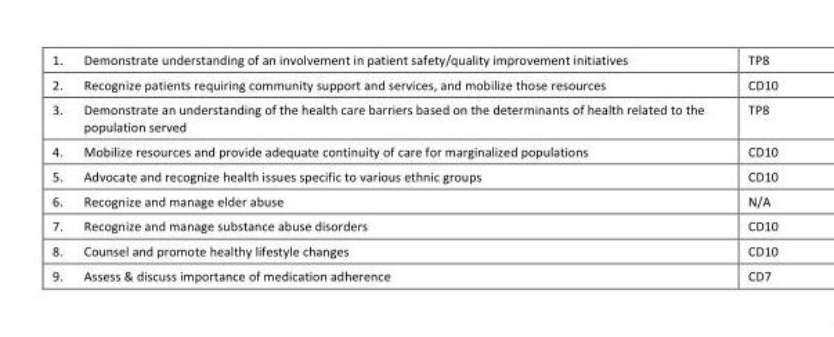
<table><tbody><tr><td>1.</td><td>Demonstrate understanding of an involvement in patient safety/quality improvement initiatives</td><td>TP8</td></tr><tr><td>2.</td><td>Recognize patients requiring community support and services, and mobilize those resources</td><td>CD10</td></tr><tr><td>3.</td><td>Demonstrate an understanding of the health care barriers based on the determinants of health related to the population served</td><td>TP8</td></tr><tr><td>4.</td><td>Mobilize resources and provide adequate continuity of care for marginalized populations</td><td>CD10</td></tr><tr><td>5.</td><td>Advocate and recognize health issues specific to various ethnic groups</td><td>CD10</td></tr><tr><td>6.</td><td>Recognize and manage elder abuse</td><td>N/A</td></tr><tr><td>7.</td><td>Recognize and manage substance abuse disorders</td><td>CD10</td></tr><tr><td>8.</td><td>Counsel and promote healthy lifestyle changes</td><td>CD10</td></tr><tr><td>9.</td><td>Assess &amp; discuss importance of medication adherence</td><td>CD7</td></tr></tbody></table>